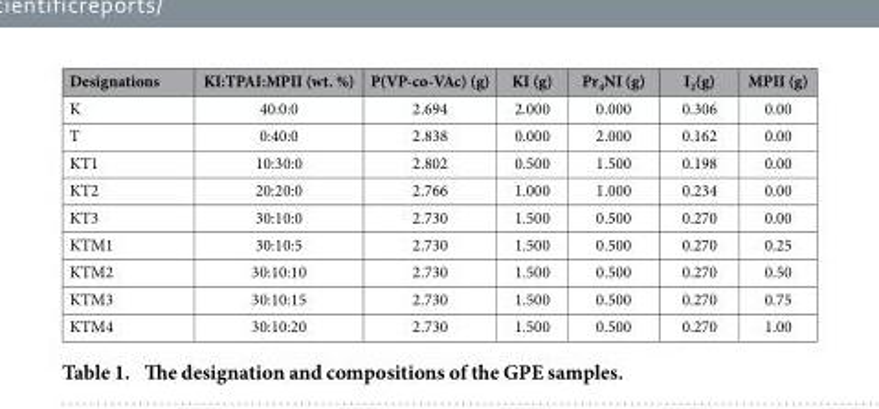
<table><thead><tr><td>Designations</td><td>KI:TPAI:MPII (wt. %)</td><td>P(VP-co-VAc) (g)</td><td>KI (g)</td><td>Pr<sub>4</sub>NI (g)</td><td>I<sub>2</sub>(g)</td><td>MPII (g)</td></tr></thead><tbody><tr><td>K</td><td>40:0:0</td><td>2.694</td><td>2.000</td><td>0.000</td><td>0.306</td><td>0.00</td></tr><tr><td>T</td><td>0:40:0</td><td>2.838</td><td>0.000</td><td>2.000</td><td>0.162</td><td>0.00</td></tr><tr><td>KT1</td><td>10:30:0</td><td>2.802</td><td>0.500</td><td>1.500</td><td>0.198</td><td>0.00</td></tr><tr><td>KT2</td><td>20:20:0</td><td>2.766</td><td>1.000</td><td>1.000</td><td>0.234</td><td>0.00</td></tr><tr><td>KT3</td><td>30:10:0</td><td>2.730</td><td>1.500</td><td>0.500</td><td>0.270</td><td>0.00</td></tr><tr><td>KTM1</td><td>30:10:5</td><td>2.730</td><td>1.500</td><td>0.500</td><td>0.270</td><td>0.25</td></tr><tr><td>KTM2</td><td>30:10:10</td><td>2.730</td><td>1.500</td><td>0.500</td><td>0.270</td><td>0.50</td></tr><tr><td>KTM3</td><td>30:10:15</td><td>2.730</td><td>1.500</td><td>0.500</td><td>0.270</td><td>0.75</td></tr><tr><td>KTM4</td><td>30:10:20</td><td>2.730</td><td>1.500</td><td>0.500</td><td>0.270</td><td>1.00</td></tr></tbody></table>